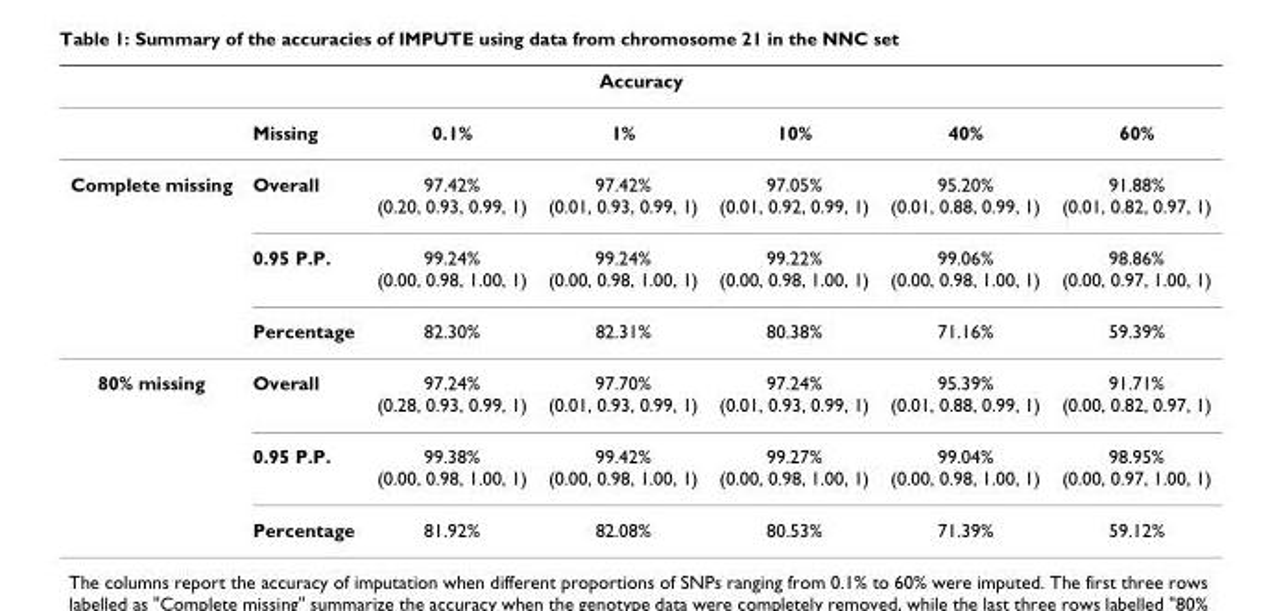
<table><thead><tr><td colspan="7">Accuracy</td></tr><tr><td></td><td>Missing</td><td>0.1%</td><td>1%</td><td>10%</td><td>40%</td><td>60%</td></tr></thead><tbody><tr><td rowspan="3">Complete missing</td><td>Overall</td><td>97.42% (0.20, 0.93, 0.99, 1)</td><td>97.42% (0.01, 0.93, 0.99, 1)</td><td>97.05% (0.01, 0.92, 0.99, 1)</td><td>95.20% (0.01, 0.88, 0.99, 1)</td><td>91.88% (0.01, 0.82, 0.97, 1)</td></tr><tr><td>0.95 P.P.</td><td>99.24% (0.00, 0.98, 1.00, 1)</td><td>99.24% (0.00, 0.98, 1.00, 1)</td><td>99.22% (0.00, 0.98, 1.00, 1)</td><td>99.06% (0.00, 0.98, 1.00, 1)</td><td>98.86% (0.00, 0.97, 1.00, 1)</td></tr><tr><td>Percentage</td><td>82.30%</td><td>82.31%</td><td>80.38%</td><td>71.16%</td><td>59.39%</td></tr><tr><td rowspan="3">80% missing</td><td>Overall</td><td>97.24% (0.28, 0.93, 0.99, 1)</td><td>97.70% (0.01, 0.93, 0.99, 1)</td><td>97.24% (0.01, 0.93, 0.99, 1)</td><td>95.39% (0.01, 0.88, 0.99, 1)</td><td>91.71% (0.00, 0.82, 0.97, 1)</td></tr><tr><td>0.95 P.P.</td><td>99.38% (0.00, 0.98, 1.00, 1)</td><td>99.42% (0.00, 0.98, 1.00, 1)</td><td>99.27% (0.00, 0.98, 1.00, 1)</td><td>99.04% (0.00, 0.98, 1.00, 1)</td><td>98.95% (0.00, 0.97, 1.00, 1)</td></tr><tr><td>Percentage</td><td>81.92%</td><td>82.08%</td><td>80.53%</td><td>71.39%</td><td>59.12%</td></tr></tbody></table>